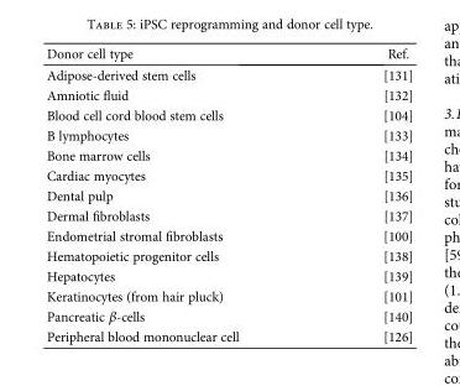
<table><thead><tr><td>Donor cell type</td><td>Ref.</td></tr></thead><tbody><tr><td>Adipose-derived stem cells</td><td>[131]</td></tr><tr><td>Amniotic fluid</td><td>[132]</td></tr><tr><td>Blood cell cord blood stem cells</td><td>[104]</td></tr><tr><td>B lymphocytes</td><td>[133]</td></tr><tr><td>Bone marrow cells</td><td>[134]</td></tr><tr><td>Cardiac myocytes</td><td>[135]</td></tr><tr><td>Dental pulp</td><td>[136]</td></tr><tr><td>Dermal fibroblasts</td><td>[137]</td></tr><tr><td>Endometrial stromal fibroblasts</td><td>[100]</td></tr><tr><td>Hematopoietic progenitor cells</td><td>[138]</td></tr><tr><td>Hepatocytes</td><td>[139]</td></tr><tr><td>Keratinocytes (from hair pluck)</td><td>[101]</td></tr><tr><td>Pancreatic β-cells</td><td>[140]</td></tr><tr><td>Peripheral blood mononuclear cell</td><td>[126]</td></tr></tbody></table>